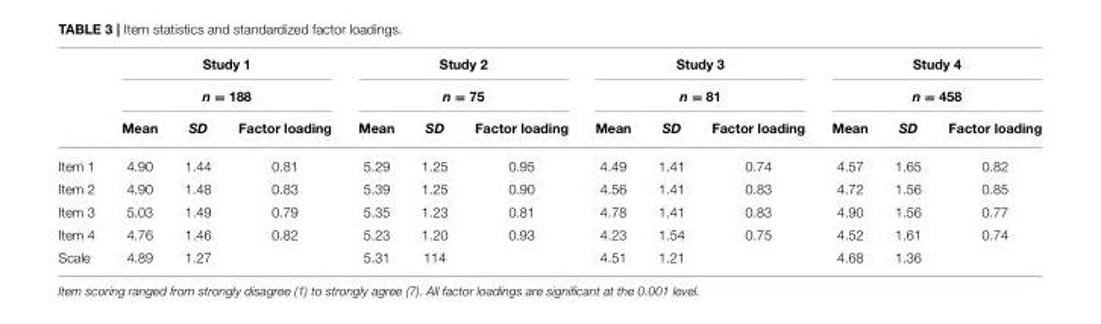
<table><thead><tr><td rowspan="3"></td><td rowspan="2" colspan="3">Study 1 n = 188</td><td rowspan="2" colspan="3">Study 2 n = 75</td><td rowspan="2" colspan="3">Study 3 n = 81</td><td rowspan="2" colspan="3">Study 4 n = 458</td></tr><tr></tr><tr><td>Mean</td><td>SD</td><td>Factor loading</td><td>Mean</td><td>SD</td><td>Factor loading</td><td>Mean</td><td>SD</td><td>Factor loading</td><td>Mean</td><td>SD</td><td>Factor loading</td></tr></thead><tbody><tr><td>Item 1</td><td>4.90</td><td>1.44</td><td>0.81</td><td>5.29</td><td>1.25</td><td>0.95</td><td>4.49</td><td>1.41</td><td>0.74</td><td>4.57</td><td>1.65</td><td>0.82</td></tr><tr><td>Item 2</td><td>4.90</td><td>1.48</td><td>0.83</td><td>5.39</td><td>1.25</td><td>0.90</td><td>4.56</td><td>1.41</td><td>0.83</td><td>4.72</td><td>1.56</td><td>0.85</td></tr><tr><td>Item 3</td><td>5.03</td><td>1.49</td><td>0.79</td><td>5.35</td><td>1.23</td><td>0.81</td><td>4.78</td><td>1.41</td><td>0.83</td><td>4.90</td><td>1.56</td><td>0.77</td></tr><tr><td>Item 4</td><td>4.76</td><td>1.46</td><td>0.82</td><td>5.23</td><td>1.20</td><td>0.93</td><td>4.23</td><td>1.54</td><td>0.75</td><td>4.52</td><td>1.61</td><td>0.74</td></tr><tr><td>Scale</td><td>4.89</td><td>1.27</td><td></td><td>5.31</td><td>114</td><td></td><td>4.51</td><td>1.21</td><td></td><td>4.68</td><td>1.36</td><td></td></tr></tbody></table>